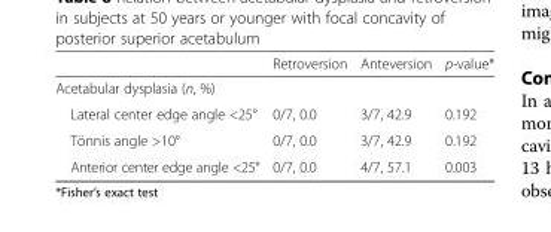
<table><thead><tr><td></td><td>Retroversion</td><td>Anteversion</td><td>p-value*</td></tr></thead><tbody><tr><td colspan="4">Acetabular dysplasia (n, %)</td></tr><tr><td>Lateral center edge angle &lt;25°</td><td>0/7, 0.0</td><td>3/7, 42.9</td><td>0.192</td></tr><tr><td>Tönnis angle &gt;10°</td><td>0/7, 0.0</td><td>3/7, 42.9</td><td>0.192</td></tr><tr><td>Anterior center edge angle &lt;25°</td><td>0/7, 0.0</td><td>4/7, 57.1</td><td>0.003</td></tr></tbody></table>